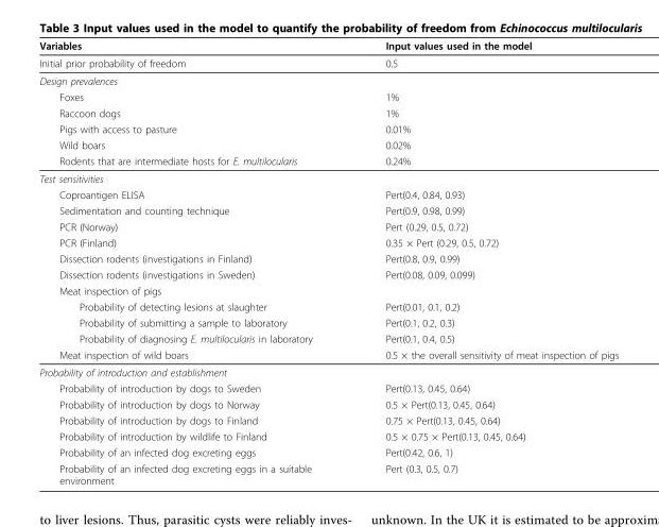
<table><thead><tr><td>Variables</td><td>Input values used in the model</td></tr></thead><tbody><tr><td>Initial prior probability of freedom</td><td>0.5</td></tr><tr><td colspan="2">Design prevalences</td></tr><tr><td>Foxes</td><td>1%</td></tr><tr><td>Raccoon dogs</td><td>1%</td></tr><tr><td>Pigs with access to pasture</td><td>0.01%</td></tr><tr><td>Wild boars</td><td>0.02%</td></tr><tr><td>Rodents that are intermediate hosts for E. multilocularis</td><td>0.24%</td></tr><tr><td colspan="2">Test sensitivities</td></tr><tr><td>Coproantigen ELISA</td><td>Pert(0.4, 0.84, 0.93)</td></tr><tr><td>Sedimentation and counting technique</td><td>Pert(0.9, 0.98, 0.99)</td></tr><tr><td>PCR (Norway)</td><td>Pert (0.29, 0.5, 0.72)</td></tr><tr><td>PCR (Finland)</td><td>0.35 × Pert (0.29, 0.5, 0.72)</td></tr><tr><td>Dissection rodents (investigations in Finland)</td><td>Pert(0.8, 0.9, 0.99)</td></tr><tr><td>Dissection rodents (investigations in Sweden)</td><td>Pert(0.08, 0.09, 0.099)</td></tr><tr><td colspan="2">Meat inspection of pigs</td></tr><tr><td>Probability of detecting lesions at slaughter</td><td>Pert(0.01, 0.1, 0.2)</td></tr><tr><td>Probability of submitting a sample to laboratory</td><td>Pert(0.1, 0.2, 0.3)</td></tr><tr><td>Probability of diagnosing E. multilocularis in laboratory</td><td>Pert(0.1, 0.4, 0.5)</td></tr><tr><td>Meat inspection of wild boars</td><td>0.5 × the overall sensitivity of meat inspection of pigs</td></tr><tr><td colspan="2">Probability of introduction and establishment</td></tr><tr><td>Probability of introduction by dogs to Sweden</td><td>Pert(0.13, 0.45, 0.64)</td></tr><tr><td>Probability of introduction by dogs to Norway</td><td>0.5 × Pert(0.13, 0.45, 0.64)</td></tr><tr><td>Probability of introduction by dogs to Finland</td><td>0.75 × Pert(0.13, 0.45, 0.64)</td></tr><tr><td>Probability of introduction by wildlife to Finland</td><td>0.5 × 0.75 × Pert(0.13, 0.45, 0.64)</td></tr><tr><td>Probability of an infected dog excreting eggs</td><td>Pert(0.42, 0.6, 1)</td></tr><tr><td>Probability of an infected dog excreting eggs in a suitable environment</td><td>Pert (0.3, 0.5, 0.7)</td></tr></tbody></table>